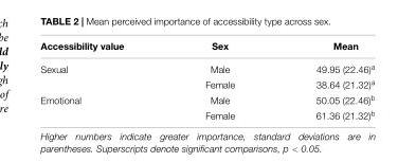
<table><thead><tr><td>Accessibility value</td><td>Sex</td><td>Mean</td></tr></thead><tbody><tr><td rowspan="2">Sexual</td><td>Male</td><td>49.95 (22.46)<sup>a</sup></td></tr><tr><td>Female</td><td>38.64 (21.32)<sup>a</sup></td></tr><tr><td rowspan="2">Emotional</td><td>Male</td><td>50.05 (22.46)<sup>b</sup></td></tr><tr><td>Female</td><td>61.36 (21.32)<sup>b</sup></td></tr></tbody></table>